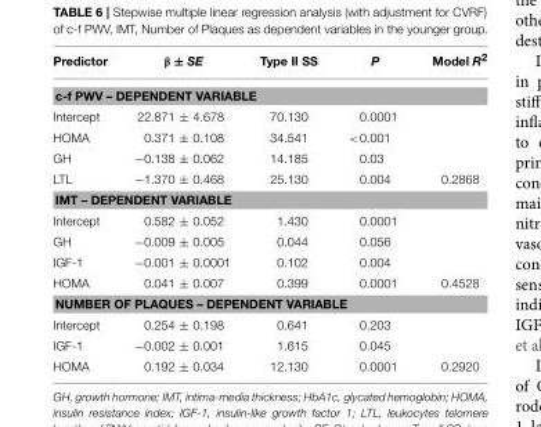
<table><thead><tr><td>Predictor</td><td>β ± SE</td><td>Type II SS</td><td>P</td><td>Model R<sup>2</sup></td></tr></thead><tbody><tr><td colspan="5">c-f PWV – DEPENDENT VARIABLE</td></tr><tr><td>Intercept</td><td>22.871 ± 4.678</td><td>70.130</td><td>0.0001</td><td></td></tr><tr><td>HOMA</td><td>0.371 ± 0.108</td><td>34.541</td><td>&lt;0.001</td><td></td></tr><tr><td>GH</td><td>−0.138 ± 0.062</td><td>14.185</td><td>0.03</td><td></td></tr><tr><td>LTL</td><td>−1.370 ± 0.468</td><td>25.130</td><td>0.004</td><td>0.2868</td></tr><tr><td colspan="5">IMT – DEPENDENT VARIABLE</td></tr><tr><td>Intercept</td><td>0.582 ± 0.052</td><td>1.430</td><td>0.0001</td><td></td></tr><tr><td>GH</td><td>−0.009 ± 0.005</td><td>0.044</td><td>0.056</td><td></td></tr><tr><td>IGF-1</td><td>−0.001 ± 0.0001</td><td>0.102</td><td>0.004</td><td></td></tr><tr><td>HOMA</td><td>0.041 ± 0.007</td><td>0.399</td><td>0.0001</td><td>0.4528</td></tr><tr><td colspan="5">NUMBER OF PLAQUES – DEPENDENT VARIABLE</td></tr><tr><td>Intercept</td><td>0.254 ± 0.198</td><td>0.641</td><td>0.203</td><td></td></tr><tr><td>IGF-1</td><td>−0.002 ± 0.001</td><td>1.615</td><td>0.045</td><td></td></tr><tr><td>HOMA</td><td>0.192 ± 0.034</td><td>12.130</td><td>0.0001</td><td>0.2920</td></tr></tbody></table>